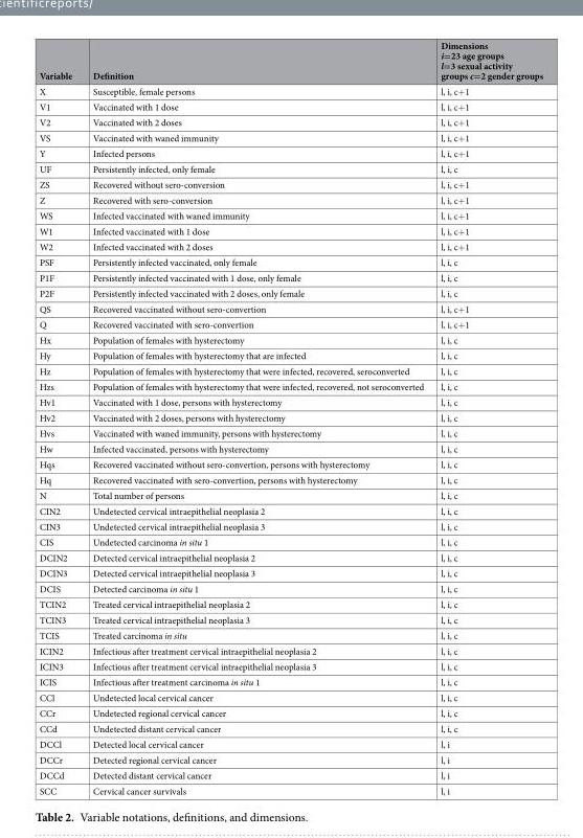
<table><thead><tr><td>Variable</td><td>Definition</td><td>Dimensions i=23 age groups l=3 sexual activity groups c=2 gender groups</td></tr></thead><tbody><tr><td>X</td><td>Susceptible, female persons</td><td>l, i, c+1</td></tr><tr><td>V1</td><td>Vaccinated with 1 dose</td><td>l, i, c+1</td></tr><tr><td>V2</td><td>Vaccinated with 2 doses</td><td>l, i, c+1</td></tr><tr><td>VS</td><td>Vaccinated with waned immunity</td><td>l, i, c+1</td></tr><tr><td>Y</td><td>Infected persons</td><td>l, i, c+1</td></tr><tr><td>UF</td><td>Persistently infected, only female</td><td>l, i, c</td></tr><tr><td>ZS</td><td>Recovered without sero-conversion</td><td>l, i, c+1</td></tr><tr><td>Z</td><td>Recovered with sero-conversion</td><td>l, i, c+1</td></tr><tr><td>WS</td><td>Infected vaccinated with waned immunity</td><td>l, i, c+1</td></tr><tr><td>W1</td><td>Infected vaccinated with 1 dose</td><td>l, i, c+1</td></tr><tr><td>W2</td><td>Infected vaccinated with 2 doses</td><td>l, i, c+1</td></tr><tr><td>PSF</td><td>Persistently infected vaccinated, only female</td><td>l, i, c</td></tr><tr><td>P1F</td><td>Persistently infected vaccinated with 1 dose, only female</td><td>l, i, c</td></tr><tr><td>P2F</td><td>Persistently infected vaccinated with 2 doses, only female</td><td>l, i, c</td></tr><tr><td>QS</td><td>Recovered vaccinated without sero-convertion</td><td>l, i, c+1</td></tr><tr><td>Q</td><td>Recovered vaccinated with sero-convertion</td><td>l, i, c+1</td></tr><tr><td>Hx</td><td>Population of females with hysterectomy</td><td>l, i, c</td></tr><tr><td>Hy</td><td>Population of females with hysterectomy that are infected</td><td>l, i, c</td></tr><tr><td>Hz</td><td>Population of females with hysterectomy that were infected, recovered, seroconverted</td><td>l, i, c</td></tr><tr><td>Hzs</td><td>Population of females with hysterectomy that were infected, recovered, not seroconverted</td><td>l, i, c</td></tr><tr><td>Hv1</td><td>Vaccinated with 1 dose, persons with hysterectomy</td><td>l, i, c</td></tr><tr><td>Hv2</td><td>Vaccinated with 2 doses, persons with hysterectomy</td><td>l, i, c</td></tr><tr><td>Hvs</td><td>Vaccinated with waned immunity, persons with hysterectomy</td><td>l, i, c</td></tr><tr><td>Hw</td><td>Infected vaccinated, persons with hysterectomy</td><td>l, i, c</td></tr><tr><td>Hqs</td><td>Recovered vaccinated without sero-convertion, persons with hysterectomy</td><td>l, i, c</td></tr><tr><td>Hq</td><td>Recovered vaccinated with sero-convertion, persons with hysterectomy</td><td>l, i, c</td></tr><tr><td>N</td><td>Total number of persons</td><td>l, i, c</td></tr><tr><td>CIN2</td><td>Undetected cervical intraepithelial neoplasia 2</td><td>l, i, c</td></tr><tr><td>CIN3</td><td>Undetected cervical intraepithelial neoplasia 3</td><td>l, i, c</td></tr><tr><td>CIS</td><td>Undetected carcinoma in situ 1</td><td>l, i, c</td></tr><tr><td>DCIN2</td><td>Detected cervical intraepithelial neoplasia 2</td><td>l, i, c</td></tr><tr><td>DCIN3</td><td>Detected cervical intraepithelial neoplasia 3</td><td>l, i, c</td></tr><tr><td>DCIS</td><td>Detected carcinoma in situ 1</td><td>l, i, c</td></tr><tr><td>TCIN2</td><td>Treated cervical intraepithelial neoplasia 2</td><td>l, i, c</td></tr><tr><td>TCIN3</td><td>Treated cervical intraepithelial neoplasia 3</td><td>l, i, c</td></tr><tr><td>TCIS</td><td>Treated carcinoma in situ</td><td>l, i, c</td></tr><tr><td>ICIN2</td><td>Infectious after treatment cervical intraepithelial neoplasia 2</td><td>l, i, c</td></tr><tr><td>ICIN3</td><td>Infectious after treatment cervical intraepithelial neoplasia 3</td><td>l, i, c</td></tr><tr><td>ICIS</td><td>Infectious after treatment carcinoma in situ 1</td><td>l, i, c</td></tr><tr><td>CCl</td><td>Undetected local cervical cancer</td><td>l, i, c</td></tr><tr><td>CCr</td><td>Undetected regional cervical cancer</td><td>l, i, c</td></tr><tr><td>CCd</td><td>Undetected distant cervical cancer</td><td>l, i, c</td></tr><tr><td>DCCl</td><td>Detected local cervical cancer</td><td>l, i</td></tr><tr><td>DCCr</td><td>Detected regional cervical cancer</td><td>l, i</td></tr><tr><td>DCCd</td><td>Detected distant cervical cancer</td><td>l, i</td></tr><tr><td>SCC</td><td>Cervical cancer survivals</td><td>l, i</td></tr></tbody></table>